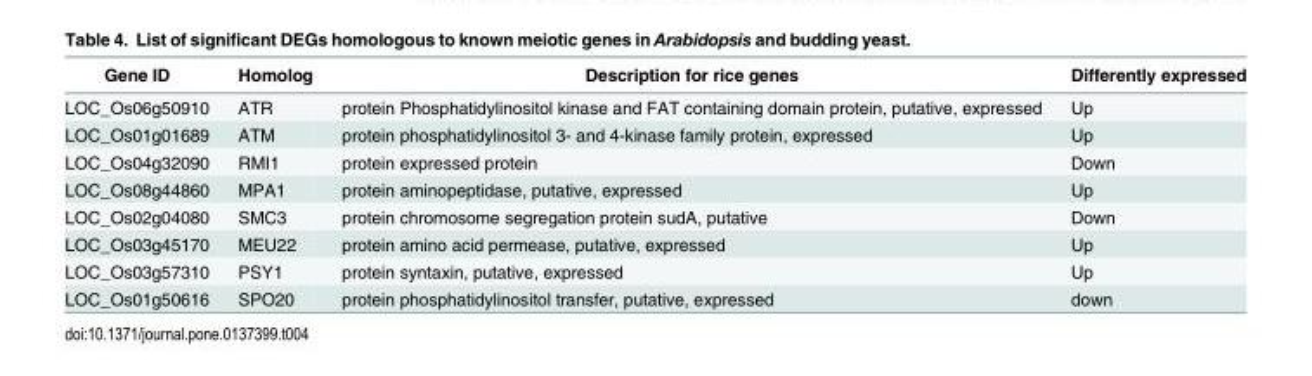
<table><thead><tr><td>Gene ID</td><td>Homolog</td><td>Description for rice genes</td><td>Differently expressed</td></tr></thead><tbody><tr><td>LOC_Os06g50910</td><td>ATR</td><td>protein Phosphatidylinositol kinase and FAT containing domain protein, putative, expressed</td><td>Up</td></tr><tr><td>LOC_Os01g01689</td><td>ATM</td><td>protein phosphatidylinositol 3- and 4-kinase family protein, expressed</td><td>Up</td></tr><tr><td>LOC_Os04g32090</td><td>RMI1</td><td>protein expressed protein</td><td>Down</td></tr><tr><td>LOC_Os08g44860</td><td>MPA1</td><td>protein aminopeptidase, putative, expressed</td><td>Up</td></tr><tr><td>LOC_Os02g04080</td><td>SMC3</td><td>protein chromosome segregation protein sudA, putative</td><td>Down</td></tr><tr><td>LOC_Os03g45170</td><td>MEU22</td><td>protein amino acid permease, putative, expressed</td><td>Up</td></tr><tr><td>LOC_Os03g57310</td><td>PSY1</td><td>protein syntaxin, putative, expressed</td><td>Up</td></tr><tr><td>LOC_Os01g50616</td><td>SPO20</td><td>protein phosphatidylinositol transfer, putative, expressed</td><td>down</td></tr></tbody></table>